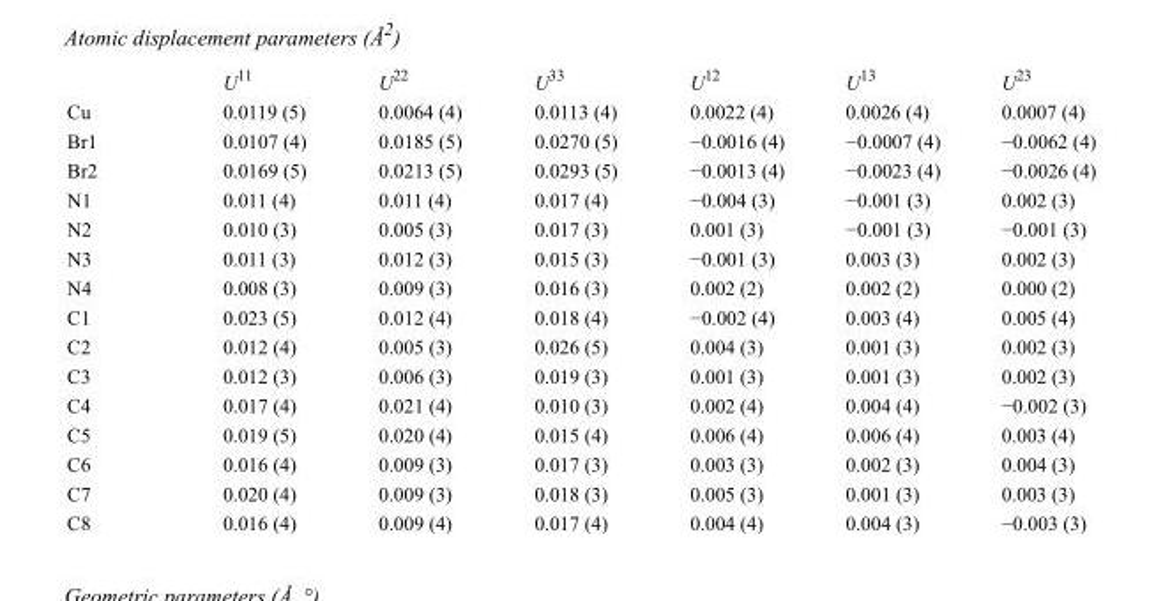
<table><thead><tr><td></td><td>U<sup>11</sup></td><td>U<sup>22</sup></td><td>U<sup>33</sup></td><td>U<sup>12</sup></td><td>U<sup>13</sup></td><td>U<sup>23</sup></td></tr></thead><tbody><tr><td>Cu</td><td>0.0119 (5)</td><td>0.0064 (4)</td><td>0.0113 (4)</td><td>0.0022 (4)</td><td>0.0026 (4)</td><td>0.0007 (4)</td></tr><tr><td>Br1</td><td>0.0107 (4)</td><td>0.0185 (5)</td><td>0.0270 (5)</td><td>−0.0016 (4)</td><td>−0.0007 (4)</td><td>−0.0062 (4)</td></tr><tr><td>Br2</td><td>0.0169 (5)</td><td>0.0213 (5)</td><td>0.0293 (5)</td><td>−0.0013 (4)</td><td>−0.0023 (4)</td><td>−0.0026 (4)</td></tr><tr><td>N1</td><td>0.011 (4)</td><td>0.011 (4)</td><td>0.017 (4)</td><td>−0.004 (3)</td><td>−0.001 (3)</td><td>0.002 (3)</td></tr><tr><td>N2</td><td>0.010 (3)</td><td>0.005 (3)</td><td>0.017 (3)</td><td>0.001 (3)</td><td>−0.001 (3)</td><td>−0.001 (3)</td></tr><tr><td>N3</td><td>0.011 (3)</td><td>0.012 (3)</td><td>0.015 (3)</td><td>−0.001 (3)</td><td>0.003 (3)</td><td>0.002 (3)</td></tr><tr><td>N4</td><td>0.008 (3)</td><td>0.009 (3)</td><td>0.016 (3)</td><td>0.002 (2)</td><td>0.002 (2)</td><td>0.000 (2)</td></tr><tr><td>C1</td><td>0.023 (5)</td><td>0.012 (4)</td><td>0.018 (4)</td><td>−0.002 (4)</td><td>0.003 (4)</td><td>0.005 (4)</td></tr><tr><td>C2</td><td>0.012 (4)</td><td>0.005 (3)</td><td>0.026 (5)</td><td>0.004 (3)</td><td>0.001 (3)</td><td>0.002 (3)</td></tr><tr><td>C3</td><td>0.012 (3)</td><td>0.006 (3)</td><td>0.019 (3)</td><td>0.001 (3)</td><td>0.001 (3)</td><td>0.002 (3)</td></tr><tr><td>C4</td><td>0.017 (4)</td><td>0.021 (4)</td><td>0.010 (3)</td><td>0.002 (4)</td><td>0.004 (4)</td><td>−0.002 (3)</td></tr><tr><td>C5</td><td>0.019 (5)</td><td>0.020 (4)</td><td>0.015 (4)</td><td>0.006 (4)</td><td>0.006 (4)</td><td>0.003 (4)</td></tr><tr><td>C6</td><td>0.016 (4)</td><td>0.009 (3)</td><td>0.017 (3)</td><td>0.003 (3)</td><td>0.002 (3)</td><td>0.004 (3)</td></tr><tr><td>C7</td><td>0.020 (4)</td><td>0.009 (3)</td><td>0.018 (3)</td><td>0.005 (3)</td><td>0.001 (3)</td><td>0.003 (3)</td></tr><tr><td>C8</td><td>0.016 (4)</td><td>0.009 (4)</td><td>0.017 (4)</td><td>0.004 (4)</td><td>0.004 (3)</td><td>−0.003 (3)</td></tr></tbody></table>